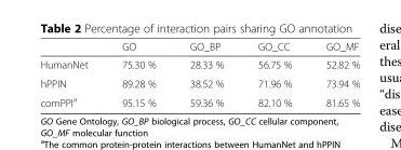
<table><thead><tr><td></td><td>GO</td><td>GO_BP</td><td>GO_CC</td><td>GO_MF</td></tr></thead><tbody><tr><td>HumanNet</td><td>75.30 %</td><td>28.33 %</td><td>56.75 %</td><td>52.82 %</td></tr><tr><td>hPPIN</td><td>89.28 %</td><td>38.52 %</td><td>71.96 %</td><td>73.94 %</td></tr><tr><td>comPPI<sup>a</sup></td><td>95.15 %</td><td>59.36 %</td><td>82.10 %</td><td>81.65 %</td></tr></tbody></table>